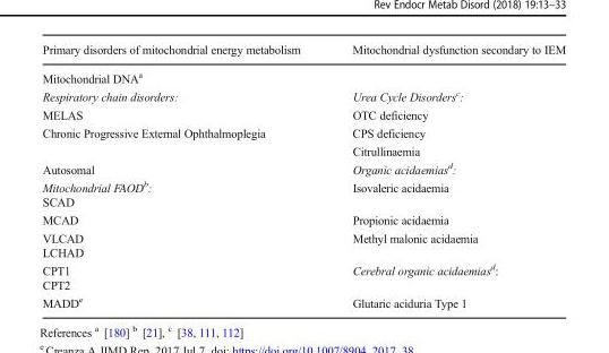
<table><thead><tr><td>Primary disorders of mitochondrial energy metabolism</td><td>Mitochondrial dysfunction secondary to IEM</td></tr></thead><tbody><tr><td colspan="2">Mitochondrial DNA<sup>a</sup></td></tr><tr><td>Respiratory chain disorders:</td><td>Urea Cycle Disorders<sup>c</sup>:</td></tr><tr><td>MELAS</td><td>OTC deficiency</td></tr><tr><td rowspan="2">Chronic Progressive External Ophthalmoplegia</td><td>CPS deficiency</td></tr><tr><td>Citrullinaemia</td></tr><tr><td>Autosomal</td><td>Organic acidaemias<sup>d</sup>:</td></tr><tr><td>Mitochondrial FAOD<sup>b</sup>:</td><td rowspan="2">Isovaleric acidaemia</td></tr><tr><td>SCAD</td></tr><tr><td>MCAD</td><td>Propionic acidaemia</td></tr><tr><td>VLCAD</td><td rowspan="2">Methyl malonic acidaemia</td></tr><tr><td>LCHAD</td></tr><tr><td>CPT1</td><td rowspan="2">Cerebral organic acidaemias<sup>d</sup>:</td></tr><tr><td>CPT2</td></tr><tr><td>MADD<sup>e</sup></td><td>Glutaric aciduria Type 1</td></tr></tbody></table>